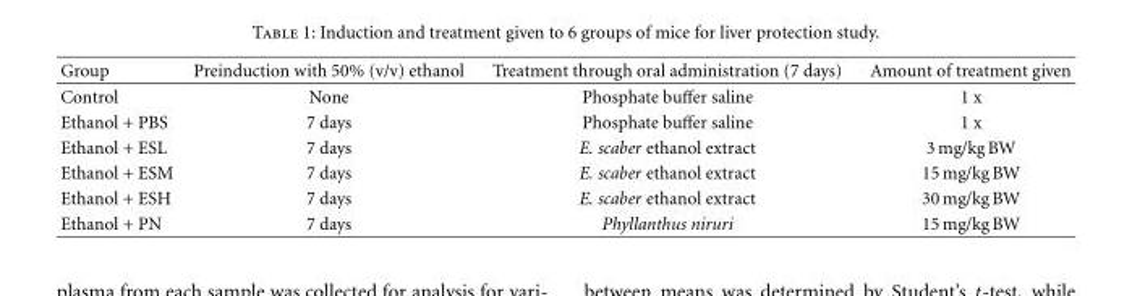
<table><thead><tr><td>Group</td><td>Preinduction with 50% (v/v) ethanol</td><td>Treatment through oral administration (7 days)</td><td>Amount of treatment given</td></tr></thead><tbody><tr><td>Control</td><td>None</td><td>Phosphate buffer saline</td><td>1 x</td></tr><tr><td>Ethanol + PBS</td><td>7 days</td><td>Phosphate buffer saline</td><td>1 x</td></tr><tr><td>Ethanol + ESL</td><td>7 days</td><td>E. scaber ethanol extract</td><td>3 mg/kg BW</td></tr><tr><td>Ethanol + ESM</td><td>7 days</td><td>E. scaber ethanol extract</td><td>15 mg/kg BW</td></tr><tr><td>Ethanol + ESH</td><td>7 days</td><td>E. scaber ethanol extract</td><td>30 mg/kg BW</td></tr><tr><td>Ethanol + PN</td><td>7 days</td><td>Phyllanthus niruri</td><td>15 mg/kg BW</td></tr></tbody></table>